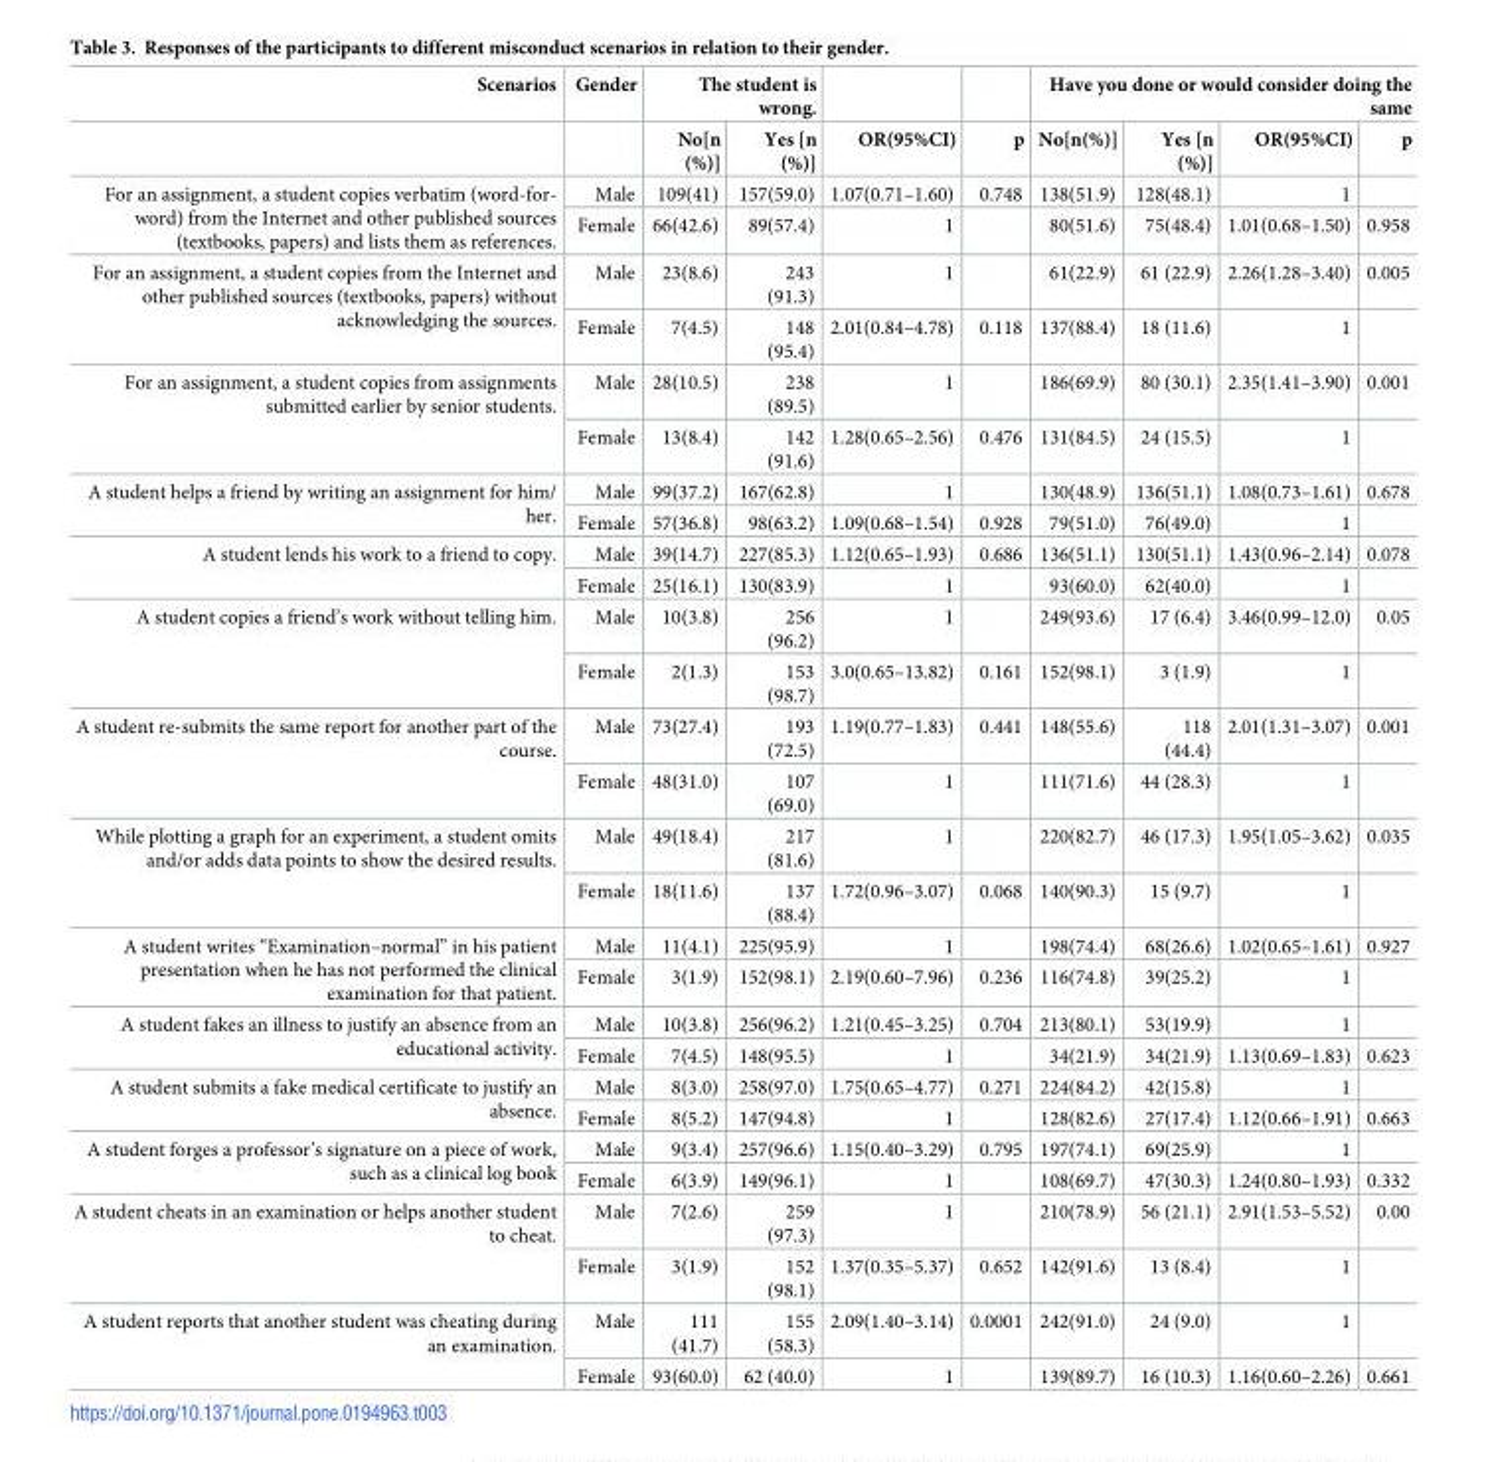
<table><thead><tr><td rowspan="2">Scenarios</td><td rowspan="2">Gender</td><td colspan="2">The student is wrong.</td><td rowspan="2">OR(95%CI)</td><td rowspan="2">p</td><td colspan="4">Have you done or would consider doing the same</td></tr><tr><td>No[n (%)]</td><td>Yes [n (%)]</td><td>No[n(%)]</td><td>Yes [n (%)]</td><td>OR(95%CI)</td><td>p</td></tr></thead><tbody><tr><td rowspan="2">For an assignment, a student copies verbatim (word-for- word) from the Internet and other published sources (textbooks, papers) and lists them as references.</td><td>Male</td><td>109(41)</td><td>157(59.0)</td><td>1.07(0.71–1.60)</td><td>0.748</td><td>138(51.9)</td><td>128(48.1)</td><td>1</td><td></td></tr><tr><td>Female</td><td>66(42.6)</td><td>89(57.4)</td><td>1</td><td></td><td>80(51.6)</td><td>75(48.4)</td><td>1.01(0.68–1.50)</td><td>0.958</td></tr><tr><td rowspan="2">For an assignment, a student copies from the Internet and other published sources (textbooks, papers) without acknowledging the sources.</td><td>Male</td><td>23(8.6)</td><td>243 (91.3)</td><td>1</td><td></td><td>61(22.9)</td><td>61 (22.9)</td><td>2.26(1.28–3.40)</td><td>0.005</td></tr><tr><td>Female</td><td>7(4.5)</td><td>148 (95.4)</td><td>2.01(0.84–4.78)</td><td>0.118</td><td>137(88.4)</td><td>18 (11.6)</td><td>1</td><td></td></tr><tr><td rowspan="2">For an assignment, a student copies from assignments submitted earlier by senior students.</td><td>Male</td><td>28(10.5)</td><td>238 (89.5)</td><td>1</td><td></td><td>186(69.9)</td><td>80 (30.1)</td><td>2.35(1.41–3.90)</td><td>0.001</td></tr><tr><td>Female</td><td>13(8.4)</td><td>142 (91.6)</td><td>1.28(0.65–2.56)</td><td>0.476</td><td>131(84.5)</td><td>24 (15.5)</td><td>1</td><td></td></tr><tr><td rowspan="2">A student helps a friend by writing an assignment for him/ her.</td><td>Male</td><td>99(37.2)</td><td>167(62.8)</td><td>1</td><td></td><td>130(48.9)</td><td>136(51.1)</td><td>1.08(0.73–1.61)</td><td>0.678</td></tr><tr><td>Female</td><td>57(36.8)</td><td>98(63.2)</td><td>1.09(0.68–1.54)</td><td>0.928</td><td>79(51.0)</td><td>76(49.0)</td><td>1</td><td></td></tr><tr><td rowspan="2">A student lends his work to a friend to copy.</td><td>Male</td><td>39(14.7)</td><td>227(85.3)</td><td>1.12(0.65–1.93)</td><td>0.686</td><td>136(51.1)</td><td>130(51.1)</td><td>1.43(0.96–2.14)</td><td>0.078</td></tr><tr><td>Female</td><td>25(16.1)</td><td>130(83.9)</td><td>1</td><td></td><td>93(60.0)</td><td>62(40.0)</td><td>1</td><td></td></tr><tr><td rowspan="2">A student copies a friend’s work without telling him.</td><td>Male</td><td>10(3.8)</td><td>256 (96.2)</td><td>1</td><td></td><td>249(93.6)</td><td>17 (6.4)</td><td>3.46(0.99–12.0)</td><td>0.05</td></tr><tr><td>Female</td><td>2(1.3)</td><td>153 (98.7)</td><td>3.0(0.65–13.82)</td><td>0.161</td><td>152(98.1)</td><td>3 (1.9)</td><td>1</td><td></td></tr><tr><td rowspan="2">A student re-submits the same report for another part of the course.</td><td>Male</td><td>73(27.4)</td><td>193 (72.5)</td><td>1.19(0.77–1.83)</td><td>0.441</td><td>148(55.6)</td><td>118 (44.4)</td><td>2.01(1.31–3.07)</td><td>0.001</td></tr><tr><td>Female</td><td>48(31.0)</td><td>107 (69.0)</td><td>1</td><td></td><td>111(71.6)</td><td>44 (28.3)</td><td>1</td><td></td></tr><tr><td rowspan="2">While plotting a graph for an experiment, a student omits and/or adds data points to show the desired results.</td><td>Male</td><td>49(18.4)</td><td>217 (81.6)</td><td>1</td><td></td><td>220(82.7)</td><td>46 (17.3)</td><td>1.95(1.05–3.62)</td><td>0.035</td></tr><tr><td>Female</td><td>18(11.6)</td><td>137 (88.4)</td><td>1.72(0.96–3.07)</td><td>0.068</td><td>140(90.3)</td><td>15 (9.7)</td><td>1</td><td></td></tr><tr><td rowspan="2">A student writes “Examination–normal” in his patient presentation when he has not performed the clinical examination for that patient.</td><td>Male</td><td>11(4.1)</td><td>225(95.9)</td><td>1</td><td></td><td>198(74.4)</td><td>68(26.6)</td><td>1.02(0.65–1.61)</td><td>0.927</td></tr><tr><td>Female</td><td>3(1.9)</td><td>152(98.1)</td><td>2.19(0.60–7.96)</td><td>0.236</td><td>116(74.8)</td><td>39(25.2)</td><td>1</td><td></td></tr><tr><td rowspan="2">A student fakes an illness to justify an absence from an educational activity.</td><td>Male</td><td>10(3.8)</td><td>256(96.2)</td><td>1.21(0.45–3.25)</td><td>0.704</td><td>213(80.1)</td><td>53(19.9)</td><td>1</td><td></td></tr><tr><td>Female</td><td>7(4.5)</td><td>148(95.5)</td><td>1</td><td></td><td>34(21.9)</td><td>34(21.9)</td><td>1.13(0.69–1.83)</td><td>0.623</td></tr><tr><td rowspan="2">A student submits a fake medical certificate to justify an absence.</td><td>Male</td><td>8(3.0)</td><td>258(97.0)</td><td>1.75(0.65–4.77)</td><td>0.271</td><td>224(84.2)</td><td>42(15.8)</td><td>1</td><td></td></tr><tr><td>Female</td><td>8(5.2)</td><td>147(94.8)</td><td>1</td><td></td><td>128(82.6)</td><td>27(17.4)</td><td>1.12(0.66–1.91)</td><td>0.663</td></tr><tr><td rowspan="2">A student forges a professor’s signature on a piece of work, such as a clinical log book</td><td>Male</td><td>9(3.4)</td><td>257(96.6)</td><td>1.15(0.40–3.29)</td><td>0.795</td><td>197(74.1)</td><td>69(25.9)</td><td>1</td><td></td></tr><tr><td>Female</td><td>6(3.9)</td><td>149(96.1)</td><td>1</td><td></td><td>108(69.7)</td><td>47(30.3)</td><td>1.24(0.80–1.93)</td><td>0.332</td></tr><tr><td rowspan="2">A student cheats in an examination or helps another student to cheat.</td><td>Male</td><td>7(2.6)</td><td>259 (97.3)</td><td>1</td><td></td><td>210(78.9)</td><td>56 (21.1)</td><td>2.91(1.53–5.52)</td><td>0.00</td></tr><tr><td>Female</td><td>3(1.9)</td><td>152 (98.1)</td><td>1.37(0.35–5.37)</td><td>0.652</td><td>142(91.6)</td><td>13 (8.4)</td><td>1</td><td></td></tr><tr><td rowspan="2">A student reports that another student was cheating during an examination.</td><td>Male</td><td>111 (41.7)</td><td>155 (58.3)</td><td>2.09(1.40–3.14)</td><td>0.0001</td><td>242(91.0)</td><td>24 (9.0)</td><td>1</td><td></td></tr><tr><td>Female</td><td>93(60.0)</td><td>62 (40.0)</td><td>1</td><td></td><td>139(89.7)</td><td>16 (10.3)</td><td>1.16(0.60–2.26)</td><td>0.661</td></tr></tbody></table>